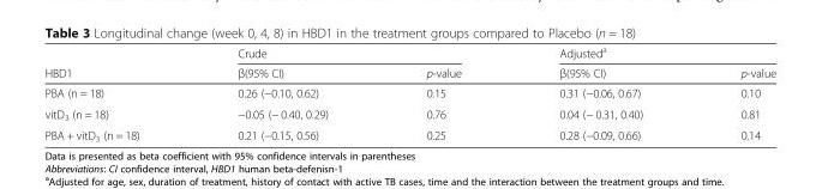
<table><thead><tr><td rowspan="2">HBD1</td><td colspan="2">Crude</td><td colspan="2">Adjusted<sup>a</sup></td></tr><tr><td>β(95% CI)</td><td>p-value</td><td>β(95% CI)</td><td>p-value</td></tr></thead><tbody><tr><td>PBA (n = 18)</td><td>0.26 (−0.10, 0.62)</td><td>0.15</td><td>0.31 (−0.06, 0.67)</td><td>0.10</td></tr><tr><td>vitD<sub>3</sub> (n = 18)</td><td>−0.05 (− 0.40, 0.29)</td><td>0.76</td><td>0.04 (− 0.31, 0.40)</td><td>0.81</td></tr><tr><td>PBA + vitD<sub>3</sub> (n = 18)</td><td>0.21 (−0.15, 0.56)</td><td>0.25</td><td>0.28 (−0.09, 0.66)</td><td>0.14</td></tr></tbody></table>